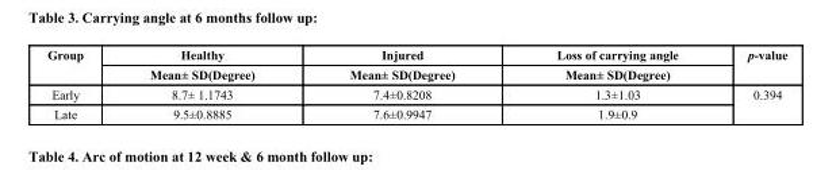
<table><thead><tr><td rowspan="2">Group</td><td rowspan="2">Healthy Mean± SD(Degree)</td><td rowspan="2">Injured Mean± SD(Degree)</td><td rowspan="2">Loss of carrying angle Mean± SD(Degree)</td><td rowspan="2">p-value</td></tr><tr></tr></thead><tbody><tr><td>Early</td><td>8.7± 1.1743</td><td>7.4±0.8208</td><td>1.3±1.03</td><td rowspan="2">0.394</td></tr><tr><td>Late</td><td>9.5±0.8885</td><td>7.6±0.9947</td><td>1.9±0.9</td></tr></tbody></table>